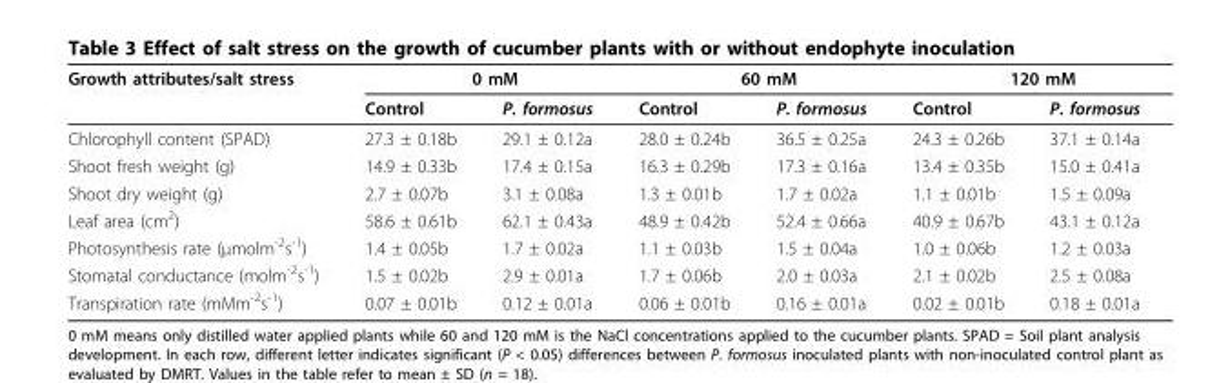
<table><thead><tr><td rowspan="2">Growth attributes/salt stress</td><td colspan="2">0 mM</td><td colspan="2">60 mM</td><td colspan="2">120 mM</td></tr><tr><td>Control</td><td>P. formosus</td><td>Control</td><td>P. formosus</td><td>Control</td><td>P. formosus</td></tr></thead><tbody><tr><td>Chlorophyll content (SPAD)</td><td>27.3 ± 0.18b</td><td>29.1 ± 0.12a</td><td>28.0 ± 0.24b</td><td>36.5 ± 0.25a</td><td>24.3 ± 0.26b</td><td>37.1 ± 0.14a</td></tr><tr><td>Shoot fresh weight (g)</td><td>14.9 ± 0.33b</td><td>17.4 ± 0.15a</td><td>16.3 ± 0.29b</td><td>17.3 ± 0.16a</td><td>13.4 ± 0.35b</td><td>15.0 ± 0.41a</td></tr><tr><td>Shoot dry weight (g)</td><td>2.7 ± 0.07b</td><td>3.1 ± 0.08a</td><td>1.3 ± 0.01b</td><td>1.7 ± 0.02a</td><td>1.1 ± 0.01b</td><td>1.5 ± 0.09a</td></tr><tr><td>Leaf area (cm<sup>2</sup>)</td><td>58.6 ± 0.61b</td><td>62.1 ± 0.43a</td><td>48.9 ± 0.42b</td><td>52.4 ± 0.66a</td><td>40.9 ± 0.67b</td><td>43.1 ± 0.12a</td></tr><tr><td>Photosynthesis rate (μmolm<sup>-2</sup>s<sup>-1</sup>)</td><td>1.4 ± 0.05b</td><td>1.7 ± 0.02a</td><td>1.1 ± 0.03b</td><td>1.5 ± 0.04a</td><td>1.0 ± 0.06b</td><td>1.2 ± 0.03a</td></tr><tr><td>Stomatal conductance (molm<sup>-2</sup>s<sup>-1</sup>)</td><td>1.5 ± 0.02b</td><td>2.9 ± 0.01a</td><td>1.7 ± 0.06b</td><td>2.0 ± 0.03a</td><td>2.1 ± 0.02b</td><td>2.5 ± 0.08a</td></tr><tr><td>Transpiration rate (mMm<sup>-2</sup>s<sup>-1</sup>)</td><td>0.07 ± 0.01b</td><td>0.12 ± 0.01a</td><td>0.06 ± 0.01b</td><td>0.16 ± 0.01a</td><td>0.02 ± 0.01b</td><td>0.18 ± 0.01a</td></tr></tbody></table>